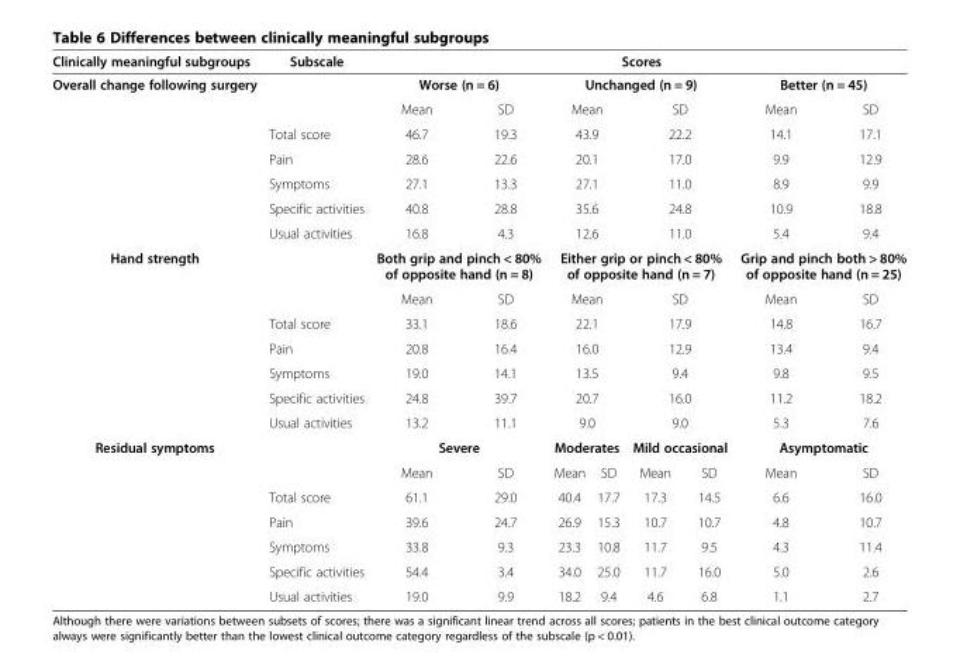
<table><thead><tr><td>Clinically meaningful subgroups</td><td>Subscale</td><td colspan="8">Scores</td></tr></thead><tbody><tr><td rowspan="7">Overall change following surgery</td><td></td><td colspan="2">Worse (n = 6)</td><td colspan="4">Unchanged (n = 9)</td><td colspan="2">Better (n = 45)</td></tr><tr><td></td><td>Mean</td><td>SD</td><td colspan="2">Mean</td><td colspan="2">SD</td><td>Mean</td><td>SD</td></tr><tr><td>Total score</td><td>46.7</td><td>19.3</td><td colspan="2">43.9</td><td colspan="2">22.2</td><td>14.1</td><td>17.1</td></tr><tr><td>Pain</td><td>28.6</td><td>22.6</td><td colspan="2">20.1</td><td colspan="2">17.0</td><td>9.9</td><td>12.9</td></tr><tr><td>Symptoms</td><td>27.1</td><td>13.3</td><td colspan="2">27.1</td><td colspan="2">11.0</td><td>8.9</td><td>9.9</td></tr><tr><td>Specific activities</td><td>40.8</td><td>28.8</td><td colspan="2">35.6</td><td colspan="2">24.8</td><td>10.9</td><td>18.8</td></tr><tr><td>Usual activities</td><td>16.8</td><td>4.3</td><td colspan="2">12.6</td><td colspan="2">11.0</td><td>5.4</td><td>9.4</td></tr><tr><td rowspan="7">Hand strength</td><td></td><td colspan="2">Both grip and pinch &lt; 80% of opposite hand (n = 8)</td><td colspan="4">Either grip or pinch &lt; 80% of opposite hand (n = 7)</td><td colspan="2">Grip and pinch both &gt; 80% of opposite hand (n = 25)</td></tr><tr><td></td><td>Mean</td><td>SD</td><td colspan="2">Mean</td><td colspan="2">SD</td><td>Mean</td><td>SD</td></tr><tr><td>Total score</td><td>33.1</td><td>18.6</td><td colspan="2">22.1</td><td colspan="2">17.9</td><td>14.8</td><td>16.7</td></tr><tr><td>Pain</td><td>20.8</td><td>16.4</td><td colspan="2">16.0</td><td colspan="2">12.9</td><td>13.4</td><td>9.4</td></tr><tr><td>Symptoms</td><td>19.0</td><td>14.1</td><td colspan="2">13.5</td><td colspan="2">9.4</td><td>9.8</td><td>9.5</td></tr><tr><td>Specific activities</td><td>24.8</td><td>39.7</td><td colspan="2">20.7</td><td colspan="2">16.0</td><td>11.2</td><td>18.2</td></tr><tr><td>Usual activities</td><td>13.2</td><td>11.1</td><td colspan="2">9.0</td><td colspan="2">9.0</td><td>5.3</td><td>7.6</td></tr><tr><td rowspan="7">Residual symptoms</td><td></td><td colspan="2">Severe</td><td colspan="2">Moderates</td><td colspan="2">Mild occasional</td><td colspan="2">Asymptomatic</td></tr><tr><td></td><td>Mean</td><td>SD</td><td>Mean</td><td>SD</td><td>Mean</td><td>SD</td><td>Mean</td><td>SD</td></tr><tr><td>Total score</td><td>61.1</td><td>29.0</td><td>40.4</td><td>17.7</td><td>17.3</td><td>14.5</td><td>6.6</td><td>16.0</td></tr><tr><td>Pain</td><td>39.6</td><td>24.7</td><td>26.9</td><td>15.3</td><td>10.7</td><td>10.7</td><td>4.8</td><td>10.7</td></tr><tr><td>Symptoms</td><td>33.8</td><td>9.3</td><td>23.3</td><td>10.8</td><td>11.7</td><td>9.5</td><td>4.3</td><td>11.4</td></tr><tr><td>Specific activities</td><td>54.4</td><td>3.4</td><td>34.0</td><td>25.0</td><td>11.7</td><td>16.0</td><td>5.0</td><td>2.6</td></tr><tr><td>Usual activities</td><td>19.0</td><td>9.9</td><td>18.2</td><td>9.4</td><td>4.6</td><td>6.8</td><td>1.1</td><td>2.7</td></tr></tbody></table>